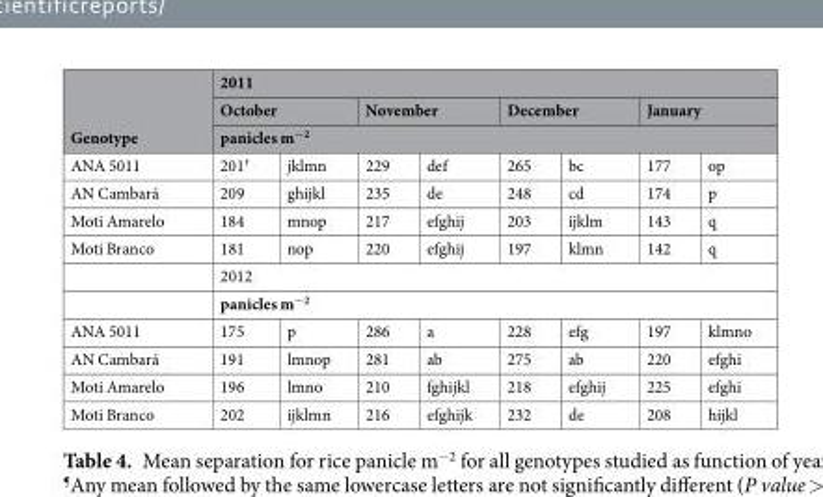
<table><thead><tr><td rowspan="4">Genotype ANA 5011</td><td colspan="8">2011</td></tr><tr><td colspan="2">October</td><td colspan="2">November</td><td colspan="2">December</td><td colspan="2">January</td></tr><tr><td colspan="8">panicles m−2</td></tr><tr><td>201<sup>†</sup></td><td>jklmn</td><td>229</td><td>def</td><td>265</td><td>bc</td><td>177</td><td>op</td></tr></thead><tbody><tr><td>AN Cambará</td><td>209</td><td>ghijkl</td><td>235</td><td>de</td><td>248</td><td>cd</td><td>174</td><td>p</td></tr><tr><td>Moti Amarelo</td><td>184</td><td>mnop</td><td>217</td><td>efghij</td><td>203</td><td>ijklm</td><td>143</td><td>q</td></tr><tr><td rowspan="3">Moti Branco</td><td>181</td><td>nop</td><td>220</td><td>efghij</td><td>197</td><td>klmn</td><td>142</td><td>q</td></tr><tr><td colspan="8">2012</td></tr><tr><td colspan="8">panicles m<sup>−2</sup></td></tr><tr><td>ANA 5011</td><td>175</td><td>p</td><td>286</td><td>a</td><td>228</td><td>efg</td><td>197</td><td>klmno</td></tr><tr><td>AN Cambará</td><td>191</td><td>lmnop</td><td>281</td><td>ab</td><td>275</td><td>ab</td><td>220</td><td>efghi</td></tr><tr><td>Moti Amarelo</td><td>196</td><td>lmno</td><td>210</td><td>fghijkl</td><td>218</td><td>efghij</td><td>225</td><td>efghi</td></tr><tr><td>Moti Branco</td><td>202</td><td>ijklmn</td><td>216</td><td>efghijk</td><td>232</td><td>de</td><td>208</td><td>hijkl</td></tr></tbody></table>